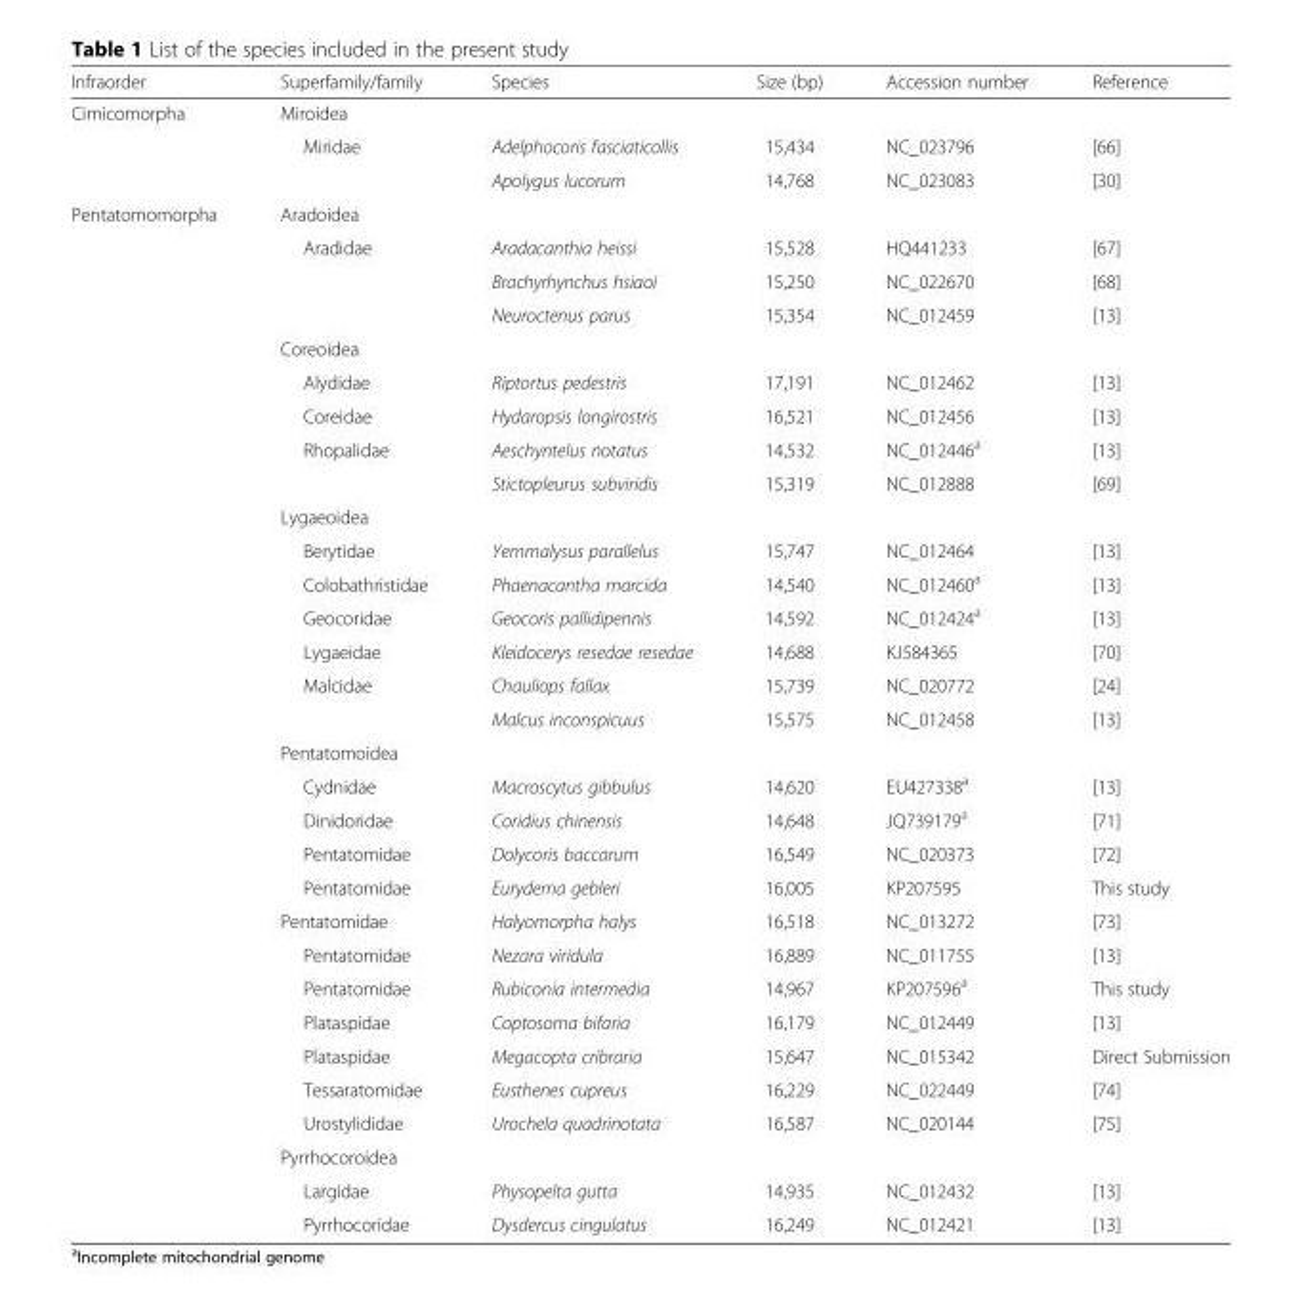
<table><thead><tr><td>Infraorder</td><td>Superfamily/family</td><td>Species</td><td>Size (bp)</td><td>Accession number</td><td>Reference</td></tr></thead><tbody><tr><td rowspan="3">Cimicomorpha</td><td>Miroidea</td><td></td><td></td><td></td><td></td></tr><tr><td>Miridae</td><td>Adelphocoris fasciaticollis</td><td>15,434</td><td>NC_023796</td><td>[66]</td></tr><tr><td></td><td>Apolygus lucorum</td><td>14,768</td><td>NC_023083</td><td>[30]</td></tr><tr><td rowspan="31">Pentatomomorpha</td><td>Aradoidea</td><td></td><td></td><td></td><td></td></tr><tr><td>Aradidae</td><td>Aradacanthia heissi</td><td>15,528</td><td>HQ441233</td><td>[67]</td></tr><tr><td></td><td>Brachyrhynchus hsiaoi</td><td>15,250</td><td>NC_022670</td><td>[68]</td></tr><tr><td></td><td>Neuroctenus parus</td><td>15,354</td><td>NC_012459</td><td>[13]</td></tr><tr><td>Coreoidea</td><td></td><td></td><td></td><td></td></tr><tr><td>Alydidae</td><td>Riptortus pedestris</td><td>17,191</td><td>NC_012462</td><td>[13]</td></tr><tr><td>Coreidae</td><td>Hydaropsis longirostris</td><td>16,521</td><td>NC_012456</td><td>[13]</td></tr><tr><td>Rhopalidae</td><td>Aeschyntelus notatus</td><td>14,532</td><td>NC_012446<sup>a</sup></td><td>[13]</td></tr><tr><td></td><td>Stictopleurus subviridis</td><td>15,319</td><td>NC_012888</td><td>[69]</td></tr><tr><td>Lygaeoidea</td><td></td><td></td><td></td><td></td></tr><tr><td>Berytidae</td><td>Yemmalysus parallelus</td><td>15,747</td><td>NC_012464</td><td>[13]</td></tr><tr><td>Colobathristidae</td><td>Phaenacantha marcida</td><td>14,540</td><td>NC_012460<sup>a</sup></td><td>[13]</td></tr><tr><td>Geocoridae</td><td>Geocoris pallidipennis</td><td>14,592</td><td>NC_012424<sup>a</sup></td><td>[13]</td></tr><tr><td>Lygaeidae</td><td>Kleidocerys resedae resedae</td><td>14,688</td><td>KJ584365</td><td>[70]</td></tr><tr><td>Malcidae</td><td>Chauliops fallax</td><td>15,739</td><td>NC_020772</td><td>[24]</td></tr><tr><td></td><td>Malcus inconspicuus</td><td>15,575</td><td>NC_012458</td><td>[13]</td></tr><tr><td>Pentatomoidea</td><td></td><td></td><td></td><td></td></tr><tr><td>Cydnidae</td><td>Macroscytus gibbulus</td><td>14,620</td><td>EU427338<sup>a</sup></td><td>[13]</td></tr><tr><td>Dinidoridae</td><td>Coridius chinensis</td><td>14,648</td><td>JQ739179<sup>a</sup></td><td>[71]</td></tr><tr><td>Pentatomidae</td><td>Dolycoris baccarum</td><td>16,549</td><td>NC_020373</td><td>[72]</td></tr><tr><td>Pentatomidae</td><td>Eurydema gebleri</td><td>16,005</td><td>KP207595</td><td>This study</td></tr><tr><td>Pentatomidae</td><td>Halyomorpha halys</td><td>16,518</td><td>NC_013272</td><td>[73]</td></tr><tr><td>Pentatomidae</td><td>Nezara viridula</td><td>16,889</td><td>NC_011755</td><td>[13]</td></tr><tr><td>Pentatomidae</td><td>Rubiconia intermedia</td><td>14,967</td><td>KP207596<sup>a</sup></td><td>This study</td></tr><tr><td>Plataspidae</td><td>Coptosoma bifaria</td><td>16,179</td><td>NC_012449</td><td>[13]</td></tr><tr><td>Plataspidae</td><td>Megacopta cribraria</td><td>15,647</td><td>NC_015342</td><td>Direct Submission</td></tr><tr><td>Tessaratomidae</td><td>Eusthenes cupreus</td><td>16,229</td><td>NC_022449</td><td>[74]</td></tr><tr><td>Urostylididae</td><td>Urochela quadrinotata</td><td>16,587</td><td>NC_020144</td><td>[75]</td></tr><tr><td>Pyrrhocoroidea</td><td></td><td></td><td></td><td></td></tr><tr><td>Largidae</td><td>Physopelta gutta</td><td>14,935</td><td>NC_012432</td><td>[13]</td></tr><tr><td>Pyrrhocoridae</td><td>Dysdercus cingulatus</td><td>16,249</td><td>NC_012421</td><td>[13]</td></tr></tbody></table>